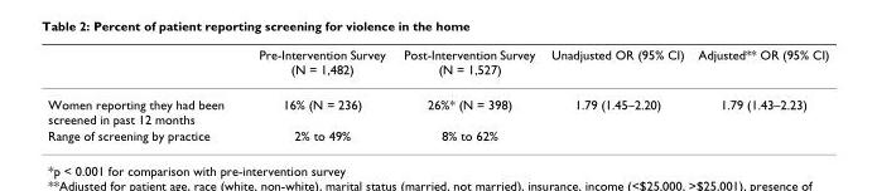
<table><thead><tr><td></td><td>Pre-Intervention Survey (N = 1,482)</td><td>Post-Intervention Survey (N = 1,527)</td><td>Unadjusted OR (95% CI)</td><td>Adjusted** OR (95% CI)</td></tr></thead><tbody><tr><td>Women reporting they had been screened in past 12 months</td><td>16% (N = 236)</td><td>26%* (N = 398)</td><td>1.79 (1.45–2.20)</td><td>1.79 (1.43–2.23)</td></tr><tr><td>Range of screening by practice</td><td>2% to 49%</td><td>8% to 62%</td><td></td><td></td></tr></tbody></table>